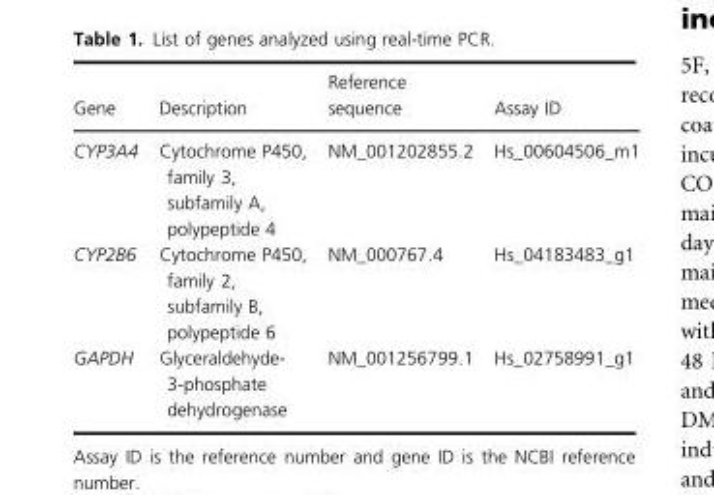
<table><thead><tr><td>Gene</td><td>Description</td><td>Reference sequence</td><td>Assay ID</td></tr></thead><tbody><tr><td>CYP3A4</td><td>Cytochrome P450, family 3, subfamily A, polypeptide 4</td><td>NM_001202855.2</td><td>Hs_00604506_m1</td></tr><tr><td>CYP2B6</td><td>Cytochrome P450, family 2, subfamily B, polypeptide 6</td><td>NM_000767.4</td><td>Hs_04183483_g1</td></tr><tr><td>GAPDH</td><td>Glyceraldehyde- 3-phosphate dehydrogenase</td><td>NM_001256799.1</td><td>Hs_02758991_g1</td></tr></tbody></table>